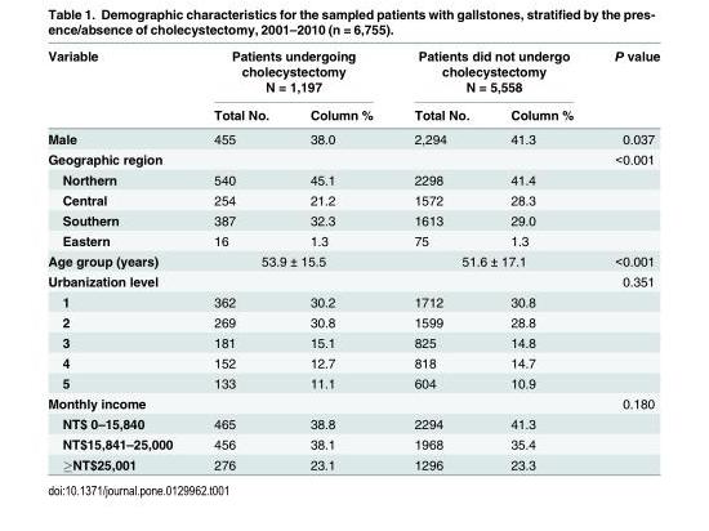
<table><thead><tr><td rowspan="2">Variable</td><td colspan="2">Patients undergoing cholecystectomy N = 1,197</td><td colspan="2">Patients did not undergo cholecystectomy N = 5,558</td><td rowspan="2">P value</td></tr><tr><td>Total No.</td><td>Column %</td><td>Total No.</td><td>Column %</td></tr></thead><tbody><tr><td>Male</td><td>455</td><td>38.0</td><td>2,294</td><td>41.3</td><td>0.037</td></tr><tr><td>Geographic region</td><td></td><td></td><td></td><td></td><td>&lt;0.001</td></tr><tr><td>Northern</td><td>540</td><td>45.1</td><td>2298</td><td>41.4</td><td></td></tr><tr><td>Central</td><td>254</td><td>21.2</td><td>1572</td><td>28.3</td><td></td></tr><tr><td>Southern</td><td>387</td><td>32.3</td><td>1613</td><td>29.0</td><td></td></tr><tr><td>Eastern</td><td>16</td><td>1.3</td><td>75</td><td>1.3</td><td></td></tr><tr><td>Age group (years)</td><td colspan="2">53.9 ± 15.5</td><td colspan="2">51.6 ± 17.1</td><td>&lt;0.001</td></tr><tr><td>Urbanization level</td><td></td><td></td><td></td><td></td><td>0.351</td></tr><tr><td>1</td><td>362</td><td>30.2</td><td>1712</td><td>30.8</td><td></td></tr><tr><td>2</td><td>269</td><td>30.8</td><td>1599</td><td>28.8</td><td></td></tr><tr><td>3</td><td>181</td><td>15.1</td><td>825</td><td>14.8</td><td></td></tr><tr><td>4</td><td>152</td><td>12.7</td><td>818</td><td>14.7</td><td></td></tr><tr><td>5</td><td>133</td><td>11.1</td><td>604</td><td>10.9</td><td></td></tr><tr><td>Monthly income</td><td></td><td></td><td></td><td></td><td>0.180</td></tr><tr><td>NT$ 0–15,840</td><td>465</td><td>38.8</td><td>2294</td><td>41.3</td><td></td></tr><tr><td>NT$15,841–25,000</td><td>456</td><td>38.1</td><td>1968</td><td>35.4</td><td></td></tr><tr><td>≥NT$25,001</td><td>276</td><td>23.1</td><td>1296</td><td>23.3</td><td></td></tr></tbody></table>